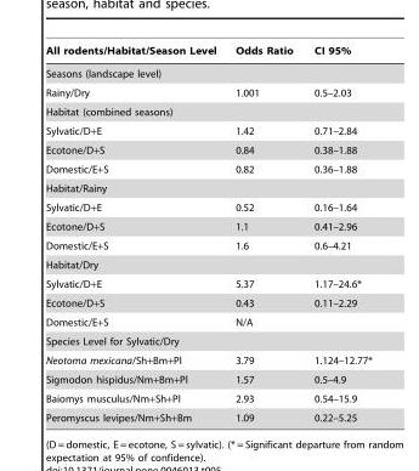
<table><thead><tr><td>All rodents/Habitat/Season Level</td><td>Odds Ratio</td><td>CI 95%</td></tr></thead><tbody><tr><td colspan="3">Seasons (landscape level)</td></tr><tr><td>Rainy/Dry</td><td>1.001</td><td>0.5–2.03</td></tr><tr><td colspan="3">Habitat (combined seasons)</td></tr><tr><td>Sylvatic/D+E</td><td>1.42</td><td>0.71–2.84</td></tr><tr><td>Ecotone/D+S</td><td>0.84</td><td>0.38–1.88</td></tr><tr><td>Domestic/E+S</td><td>0.82</td><td>0.36–1.88</td></tr><tr><td colspan="3">Habitat/Rainy</td></tr><tr><td>Sylvatic/D+E</td><td>0.52</td><td>0.16–1.64</td></tr><tr><td>Ecotone/D+S</td><td>1.1</td><td>0.41–2.96</td></tr><tr><td>Domestic/E+S</td><td>1.6</td><td>0.6–4.21</td></tr><tr><td colspan="3">Habitat/Dry</td></tr><tr><td>Sylvatic/D+E</td><td>5.37</td><td>1.17–24.6*</td></tr><tr><td>Ecotone/D+S</td><td>0.43</td><td>0.11–2.29</td></tr><tr><td>Domestic/E+S</td><td>N/A</td><td></td></tr><tr><td colspan="3">Species Level for Sylvatic/Dry</td></tr><tr><td>Neotoma mexicana/Sh+Bm+Pl</td><td>3.79</td><td>1.124–12.77*</td></tr><tr><td>Sigmodon hispidus/Nm+Bm+Pl</td><td>1.57</td><td>0.5–4.9</td></tr><tr><td>Baiomys musculus/Nm+Sh+Pl</td><td>2.93</td><td>0.54–15.9</td></tr><tr><td>Peromyscus levipes/Nm+Sh+Bm</td><td>1.09</td><td>0.22–5.25</td></tr></tbody></table>